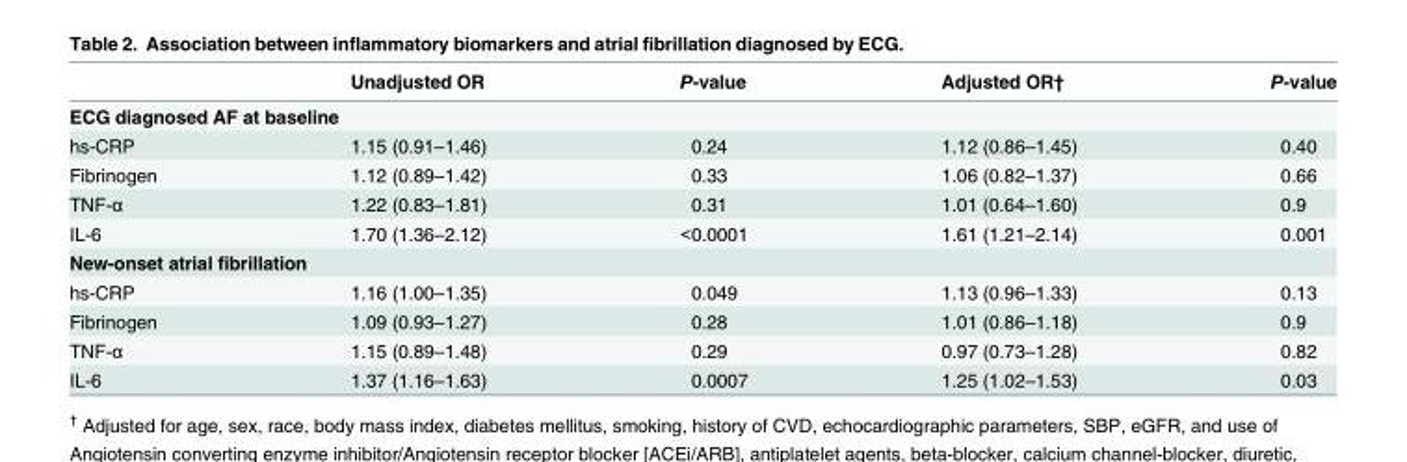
<table><thead><tr><td></td><td>Unadjusted OR</td><td>P-value</td><td>Adjusted OR†</td><td>P-value</td></tr></thead><tbody><tr><td colspan="5">ECG diagnosed AF at baseline</td></tr><tr><td>hs-CRP</td><td>1.15 (0.91–1.46)</td><td>0.24</td><td>1.12 (0.86–1.45)</td><td>0.40</td></tr><tr><td>Fibrinogen</td><td>1.12 (0.89–1.42)</td><td>0.33</td><td>1.06 (0.82–1.37)</td><td>0.66</td></tr><tr><td>TNF-α</td><td>1.22 (0.83–1.81)</td><td>0.31</td><td>1.01 (0.64–1.60)</td><td>0.9</td></tr><tr><td>IL-6</td><td>1.70 (1.36–2.12)</td><td>&lt;0.0001</td><td>1.61 (1.21–2.14)</td><td>0.001</td></tr><tr><td colspan="5">New-onset atrial fibrillation</td></tr><tr><td>hs-CRP</td><td>1.16 (1.00–1.35)</td><td>0.049</td><td>1.13 (0.96–1.33)</td><td>0.13</td></tr><tr><td>Fibrinogen</td><td>1.09 (0.93–1.27)</td><td>0.28</td><td>1.01 (0.86–1.18)</td><td>0.9</td></tr><tr><td>TNF-α</td><td>1.15 (0.89–1.48)</td><td>0.29</td><td>0.97 (0.73–1.28)</td><td>0.82</td></tr><tr><td>IL-6</td><td>1.37 (1.16–1.63)</td><td>0.0007</td><td>1.25 (1.02–1.53)</td><td>0.03</td></tr></tbody></table>